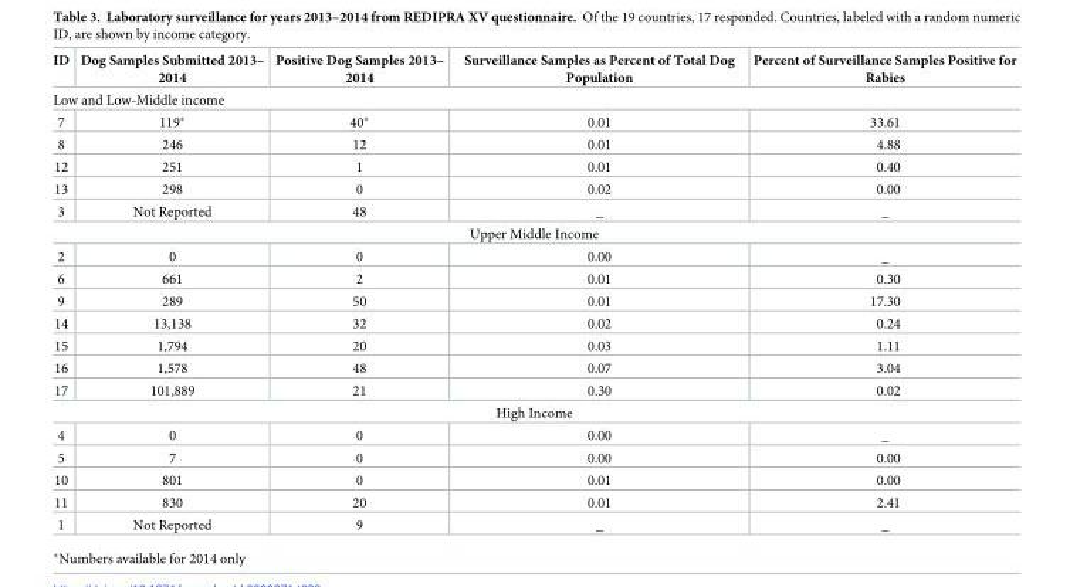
<table><thead><tr><td>ID</td><td>Dog Samples Submitted 2013– 2014</td><td>Positive Dog Samples 2013– 2014</td><td>Surveillance Samples as Percent of Total Dog Population</td><td>Percent of Surveillance Samples Positive for Rabies</td></tr></thead><tbody><tr><td colspan="5">Low and Low-Middle income</td></tr><tr><td>7</td><td>119*</td><td>40*</td><td>0.01</td><td>33.61</td></tr><tr><td>8</td><td>246</td><td>12</td><td>0.01</td><td>4.88</td></tr><tr><td>12</td><td>251</td><td>1</td><td>0.01</td><td>0.40</td></tr><tr><td>13</td><td>298</td><td>0</td><td>0.02</td><td>0.00</td></tr><tr><td>3</td><td>Not Reported</td><td>48</td><td>_</td><td>_</td></tr><tr><td colspan="5">Upper Middle Income</td></tr><tr><td>2</td><td>0</td><td>0</td><td>0.00</td><td>_</td></tr><tr><td>6</td><td>661</td><td>2</td><td>0.01</td><td>0.30</td></tr><tr><td>9</td><td>289</td><td>50</td><td>0.01</td><td>17.30</td></tr><tr><td>14</td><td>13,138</td><td>32</td><td>0.02</td><td>0.24</td></tr><tr><td>15</td><td>1,794</td><td>20</td><td>0.03</td><td>1.11</td></tr><tr><td>16</td><td>1,578</td><td>48</td><td>0.07</td><td>3.04</td></tr><tr><td>17</td><td>101,889</td><td>21</td><td>0.30</td><td>0.02</td></tr><tr><td colspan="5">High Income</td></tr><tr><td>4</td><td>0</td><td>0</td><td>0.00</td><td>_</td></tr><tr><td>5</td><td>7</td><td>0</td><td>0.00</td><td>0.00</td></tr><tr><td>10</td><td>801</td><td>0</td><td>0.01</td><td>0.00</td></tr><tr><td>11</td><td>830</td><td>20</td><td>0.01</td><td>2.41</td></tr><tr><td>1</td><td>Not Reported</td><td>9</td><td>_</td><td>_</td></tr></tbody></table>